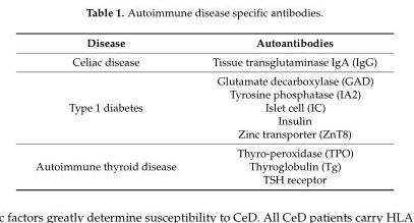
<table><thead><tr><td>Disease</td><td>Autoantibodies</td></tr></thead><tbody><tr><td>Celiac disease</td><td>Tissue transglutaminase IgA (IgG)</td></tr><tr><td>Type 1 diabetes</td><td>Glutamate decarboxylase (GAD) Tyrosine phosphatase (IA2) Islet cell (IC) Insulin Zinc transporter (ZnT8)</td></tr><tr><td>Autoimmune thyroid disease</td><td>Thyro-peroxidase (TPO) Thyroglobulin (Tg) TSH receptor</td></tr></tbody></table>